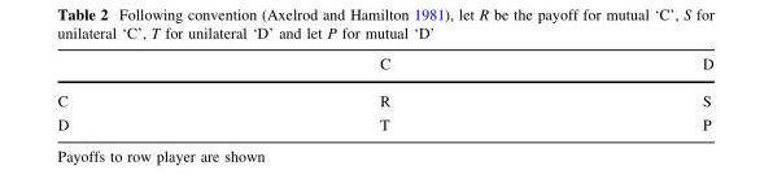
<table><thead><tr><td></td><td>C</td><td>D</td></tr></thead><tbody><tr><td>C</td><td>R</td><td>S</td></tr><tr><td>D</td><td>T</td><td>P</td></tr></tbody></table>